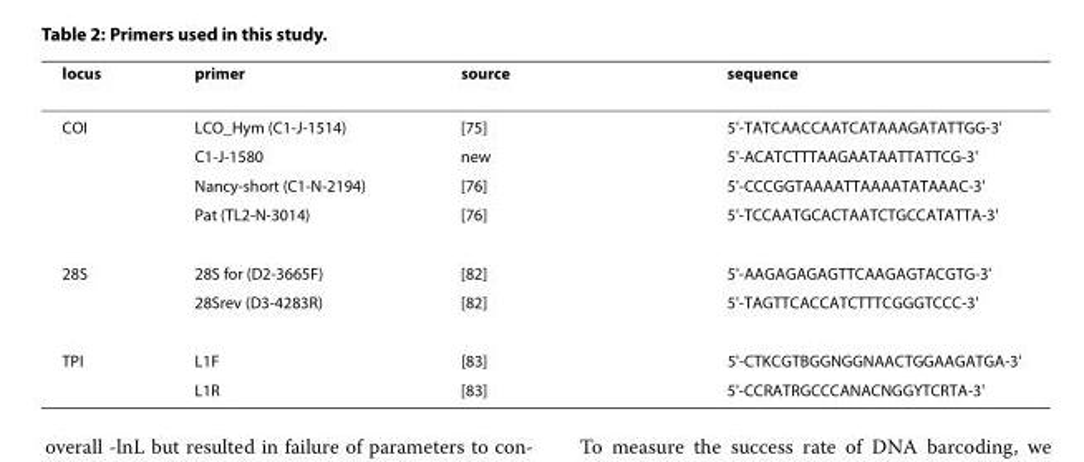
<table><thead><tr><td>locus</td><td>primer</td><td>source</td><td>sequence</td></tr></thead><tbody><tr><td rowspan="4">COI</td><td>LCO_Hym (C1-J-1514)</td><td>[75]</td><td>5&#x27;-TATCAACCAATCATAAAGATATTGG-3&#x27;</td></tr><tr><td>C1-J-1580</td><td>new</td><td>5&#x27;-ACATCTTTAAGAATAATTATTCG-3&#x27;</td></tr><tr><td>Nancy-short (C1-N-2194)</td><td>[76]</td><td>5&#x27;-CCCGGTAAAATTAAAATATAAAC-3&#x27;</td></tr><tr><td>Pat (TL2-N-3014)</td><td>[76]</td><td>5&#x27;-TCCAATGCACTAATCTGCCATATTA-3&#x27;</td></tr><tr><td rowspan="2">28S</td><td>28S for (D2-3665F)</td><td>[82]</td><td>5&#x27;-AAGAGAGAGTTCAAGAGTACGTG-3&#x27;</td></tr><tr><td>28Srev (D3-4283R)</td><td>[82]</td><td>5&#x27;-TAGTTCACCATCTTTCGGGTCCC-3&#x27;</td></tr><tr><td rowspan="2">TPI</td><td>L1F</td><td>[83]</td><td>5&#x27;-CTKCGTBGGNGGNAACTGGAAGATGA-3&#x27;</td></tr><tr><td>L1R</td><td>[83]</td><td>5&#x27;-CCRATRGCCCANACNGGYTCRTA-3&#x27;</td></tr></tbody></table>